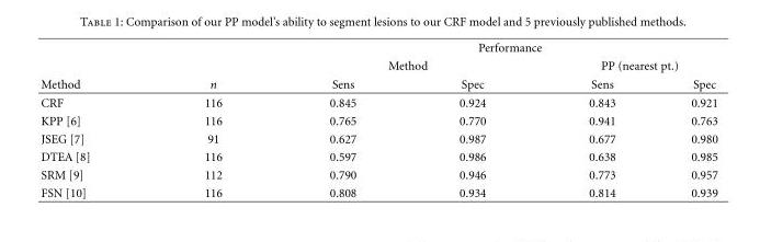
<table><thead><tr><td rowspan="3">Method</td><td rowspan="3">n</td><td colspan="4">Performance</td></tr><tr><td colspan="2">Method</td><td colspan="2">PP (nearest pt.)</td></tr><tr><td>Sens</td><td>Spec</td><td>Sens</td><td>Spec</td></tr></thead><tbody><tr><td>CRF</td><td>116</td><td>0.845</td><td>0.924</td><td>0.843</td><td>0.921</td></tr><tr><td>KPP [6]</td><td>116</td><td>0.765</td><td>0.770</td><td>0.941</td><td>0.763</td></tr><tr><td>JSEG [7]</td><td>91</td><td>0.627</td><td>0.987</td><td>0.677</td><td>0.980</td></tr><tr><td>DTEA [8]</td><td>116</td><td>0.597</td><td>0.986</td><td>0.638</td><td>0.985</td></tr><tr><td>SRM [9]</td><td>112</td><td>0.790</td><td>0.946</td><td>0.773</td><td>0.957</td></tr><tr><td>FSN [10]</td><td>116</td><td>0.808</td><td>0.934</td><td>0.814</td><td>0.939</td></tr></tbody></table>